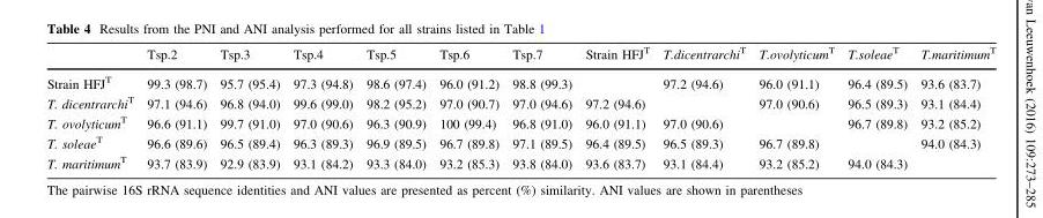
<table><thead><tr><td></td><td>Tsp.2</td><td>Tsp.3</td><td>Tsp.4</td><td>Tsp.5</td><td>Tsp.6</td><td>Tsp.7</td><td>Strain HFJ<sup>T</sup></td><td>T.dicentrarchi<sup>T</sup></td><td>T.ovolyticum<sup>T</sup></td><td>T.soleae<sup>T</sup></td><td>T.maritimum<sup>T</sup></td></tr></thead><tbody><tr><td>Strain HFJ<sup>T</sup></td><td>99.3 (98.7)</td><td>95.7 (95.4)</td><td>97.3 (94.8)</td><td>98.6 (97.4)</td><td>96.0 (91.2)</td><td>98.8 (99.3)</td><td></td><td>97.2 (94.6)</td><td>96.0 (91.1)</td><td>96.4 (89.5)</td><td>93.6 (83.7)</td></tr><tr><td>T. dicentrarchi<sup>T</sup></td><td>97.1 (94.6)</td><td>96.8 (94.0)</td><td>99.6 (99.0)</td><td>98.2 (95.2)</td><td>97.0 (90.7)</td><td>97.0 (94.6)</td><td>97.2 (94.6)</td><td></td><td>97.0 (90.6)</td><td>96.5 (89.3)</td><td>93.1 (84.4)</td></tr><tr><td>T. ovolyticum<sup>T</sup></td><td>96.6 (91.1)</td><td>99.7 (91.0)</td><td>97.0 (90.6)</td><td>96.3 (90.9)</td><td>100 (99.4)</td><td>96.8 (91.0)</td><td>96.0 (91.1)</td><td>97.0 (90.6)</td><td></td><td>96.7 (89.8)</td><td>93.2 (85.2)</td></tr><tr><td>T. soleae<sup>T</sup></td><td>96.6 (89.6)</td><td>96.5 (89.4)</td><td>96.3 (89.3)</td><td>96.9 (89.5)</td><td>96.7 (89.8)</td><td>97.1 (89.5)</td><td>96.4 (89.5)</td><td>96.5 (89.3)</td><td>96.7 (89.8)</td><td></td><td>94.0 (84.3)</td></tr><tr><td>T. maritimum<sup>T</sup></td><td>93.7 (83.9)</td><td>92.9 (83.9)</td><td>93.1 (84.2)</td><td>93.3 (84.0)</td><td>93.2 (85.3)</td><td>93.8 (84.0)</td><td>93.6 (83.7)</td><td>93.1 (84.4)</td><td>93.2 (85.2)</td><td>94.0 (84.3)</td><td></td></tr></tbody></table>